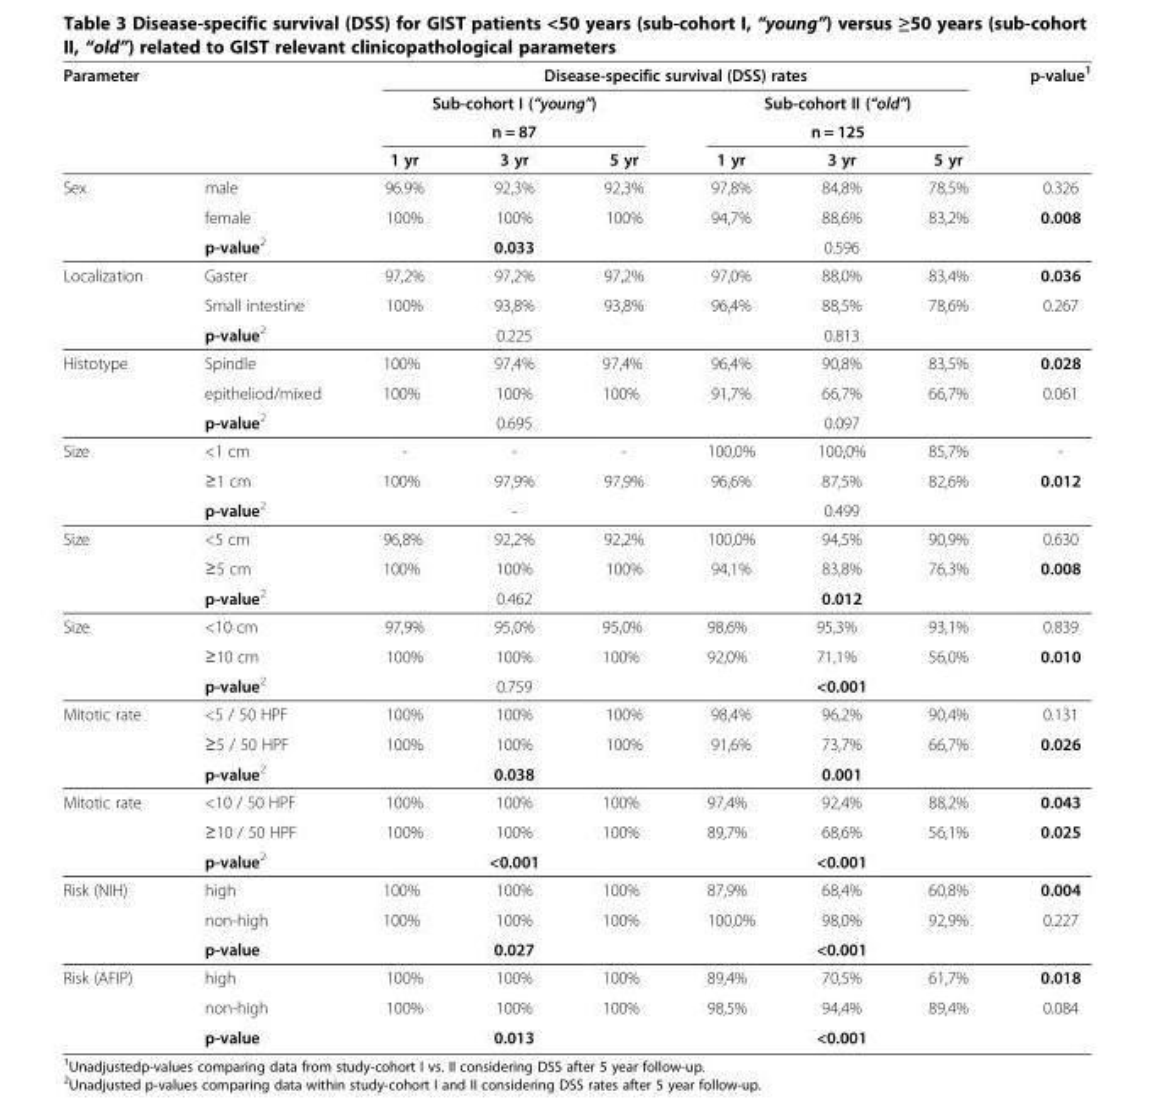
<table><thead><tr><td rowspan="4">Parameter</td><td rowspan="4"></td><td colspan="6">Disease-specific survival (DSS) rates</td><td rowspan="4">p-value<sup>1</sup></td></tr><tr><td rowspan="2" colspan="3">Sub-cohort I (“young”) n = 87</td><td rowspan="2" colspan="3">Sub-cohort II (“old”) n = 125</td></tr><tr></tr><tr><td>1 yr</td><td>3 yr</td><td>5 yr</td><td>1 yr</td><td>3 yr</td><td>5 yr</td></tr></thead><tbody><tr><td rowspan="3">Sex</td><td>male</td><td>96.9%</td><td>92,3%</td><td>92,3%</td><td>97,8%</td><td>84,8%</td><td>78,5%</td><td>0.326</td></tr><tr><td>female</td><td>100%</td><td>100%</td><td>100%</td><td>94,7%</td><td>88,6%</td><td>83,2%</td><td>0.008</td></tr><tr><td>p-value<sup>2</sup></td><td></td><td>0.033</td><td></td><td></td><td>0.596</td><td></td><td></td></tr><tr><td rowspan="3">Localization</td><td>Gaster</td><td>97,2%</td><td>97,2%</td><td>97,2%</td><td>97,0%</td><td>88,0%</td><td>83,4%</td><td>0.036</td></tr><tr><td>Small intestine</td><td>100%</td><td>93,8%</td><td>93,8%</td><td>96,4%</td><td>88,5%</td><td>78,6%</td><td>0.267</td></tr><tr><td>p-value<sup>2</sup></td><td></td><td>0.225</td><td></td><td></td><td>0.813</td><td></td><td></td></tr><tr><td rowspan="3">Histotype</td><td>Spindle</td><td>100%</td><td>97,4%</td><td>97,4%</td><td>96,4%</td><td>90,8%</td><td>83,5%</td><td>0.028</td></tr><tr><td>epitheliod/mixed</td><td>100%</td><td>100%</td><td>100%</td><td>91,7%</td><td>66,7%</td><td>66,7%</td><td>0.061</td></tr><tr><td>p-value<sup>2</sup></td><td></td><td>0.695</td><td></td><td></td><td>0.097</td><td></td><td></td></tr><tr><td rowspan="3">Size</td><td>&lt;1 cm</td><td>-</td><td>-</td><td>-</td><td>100,0%</td><td>100,0%</td><td>85,7%</td><td>-</td></tr><tr><td>≥1 cm</td><td>100%</td><td>97,9%</td><td>97,9%</td><td>96,6%</td><td>87,5%</td><td>82,6%</td><td>0.012</td></tr><tr><td>p-value<sup>2</sup></td><td></td><td>-</td><td></td><td></td><td>0.499</td><td></td><td></td></tr><tr><td rowspan="3">Size</td><td>&lt;5 cm</td><td>96,8%</td><td>92,2%</td><td>92,2%</td><td>100,0%</td><td>94,5%</td><td>90,9%</td><td>0.630</td></tr><tr><td>≥5 cm</td><td>100%</td><td>100%</td><td>100%</td><td>94,1%</td><td>83,8%</td><td>76,3%</td><td>0.008</td></tr><tr><td>p-value<sup>2</sup></td><td></td><td>0.462</td><td></td><td></td><td>0.012</td><td></td><td></td></tr><tr><td rowspan="3">Size</td><td>&lt;10 cm</td><td>97,9%</td><td>95,0%</td><td>95,0%</td><td>98,6%</td><td>95,3%</td><td>93,1%</td><td>0.839</td></tr><tr><td>≥10 cm</td><td>100%</td><td>100%</td><td>100%</td><td>92,0%</td><td>71,1%</td><td>56,0%</td><td>0.010</td></tr><tr><td>p-value<sup>2</sup></td><td></td><td>0.759</td><td></td><td></td><td>&lt;0.001</td><td></td><td></td></tr><tr><td rowspan="3">Mitotic rate</td><td>&lt;5 / 50 HPF</td><td>100%</td><td>100%</td><td>100%</td><td>98,4%</td><td>96,2%</td><td>90,4%</td><td>0.131</td></tr><tr><td>≥5 / 50 HPF</td><td>100%</td><td>100%</td><td>100%</td><td>91,6%</td><td>73,7%</td><td>66,7%</td><td>0.026</td></tr><tr><td>p-value<sup>2</sup></td><td></td><td>0.038</td><td></td><td></td><td>0.001</td><td></td><td></td></tr><tr><td rowspan="3">Mitotic rate</td><td>&lt;10 / 50 HPF</td><td>100%</td><td>100%</td><td>100%</td><td>97,4%</td><td>92,4%</td><td>88,2%</td><td>0.043</td></tr><tr><td>≥10 / 50 HPF</td><td>100%</td><td>100%</td><td>100%</td><td>89,7%</td><td>68,6%</td><td>56,1%</td><td>0.025</td></tr><tr><td>p-value<sup>2</sup></td><td></td><td>&lt;0.001</td><td></td><td></td><td>&lt;0.001</td><td></td><td></td></tr><tr><td rowspan="3">Risk (NIH)</td><td>high</td><td>100%</td><td>100%</td><td>100%</td><td>87,9%</td><td>68,4%</td><td>60,8%</td><td>0.004</td></tr><tr><td>non-high</td><td>100%</td><td>100%</td><td>100%</td><td>100,0%</td><td>98,0%</td><td>92,9%</td><td>0.227</td></tr><tr><td>p-value</td><td></td><td>0.027</td><td></td><td></td><td>&lt;0.001</td><td></td><td></td></tr><tr><td rowspan="3">Risk (AFIP)</td><td>high</td><td>100%</td><td>100%</td><td>100%</td><td>89,4%</td><td>70,5%</td><td>61,7%</td><td>0.018</td></tr><tr><td>non-high</td><td>100%</td><td>100%</td><td>100%</td><td>98,5%</td><td>94,4%</td><td>89,4%</td><td>0.084</td></tr><tr><td>p-value</td><td></td><td>0.013</td><td></td><td></td><td>&lt;0.001</td><td></td><td></td></tr></tbody></table>